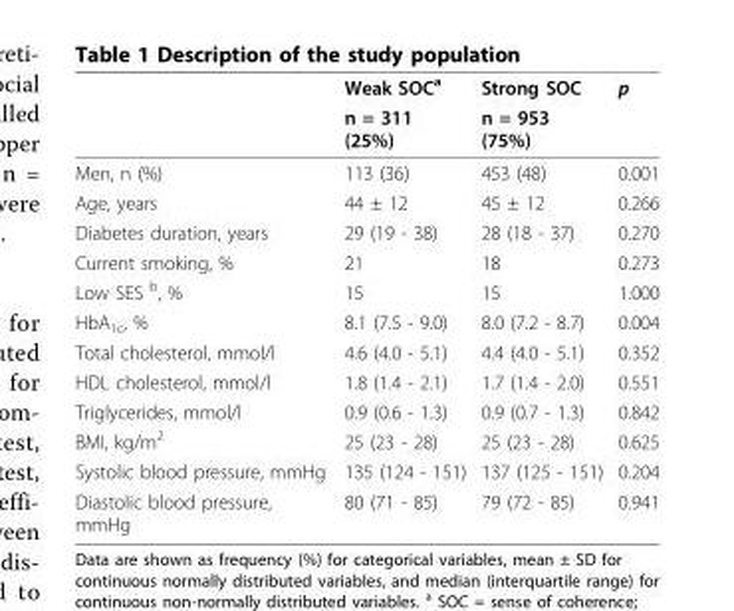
<table><thead><tr><td rowspan="2"></td><td rowspan="2">Weak SOC<sup>a</sup> n = 311 (25%)</td><td rowspan="2">Strong SOC n = 953 (75%)</td><td rowspan="2">p</td></tr><tr></tr></thead><tbody><tr><td>Men, n (%)</td><td>113 (36)</td><td>453 (48)</td><td>0.001</td></tr><tr><td>Age, years</td><td>44 ± 12</td><td>45 ± 12</td><td>0.266</td></tr><tr><td>Diabetes duration, years</td><td>29 (19 - 38)</td><td>28 (18 - 37)</td><td>0.270</td></tr><tr><td>Current smoking, %</td><td>21</td><td>18</td><td>0.273</td></tr><tr><td>Low SES <sup>b</sup>, %</td><td>15</td><td>15</td><td>1.000</td></tr><tr><td>HbA<sub>1c</sub>, %</td><td>8.1 (7.5 - 9.0)</td><td>8.0 (7.2 - 8.7)</td><td>0.004</td></tr><tr><td>Total cholesterol, mmol/l</td><td>4.6 (4.0 - 5.1)</td><td>4.4 (4.0 - 5.1)</td><td>0.352</td></tr><tr><td>HDL cholesterol, mmol/l</td><td>1.8 (1.4 - 2.1)</td><td>1.7 (1.4 - 2.0)</td><td>0.551</td></tr><tr><td>Triglycerides, mmol/l</td><td>0.9 (0.6 - 1.3)</td><td>0.9 (0.7 - 1.3)</td><td>0.842</td></tr><tr><td>BMI, kg/m<sup>2</sup></td><td>25 (23 - 28)</td><td>25 (23 - 28)</td><td>0.625</td></tr><tr><td>Systolic blood pressure, mmHg</td><td>135 (124 - 151)</td><td>137 (125 - 151)</td><td>0.204</td></tr><tr><td>Diastolic blood pressure, mmHg</td><td>80 (71 - 85)</td><td>79 (72 - 85)</td><td>0.941</td></tr></tbody></table>